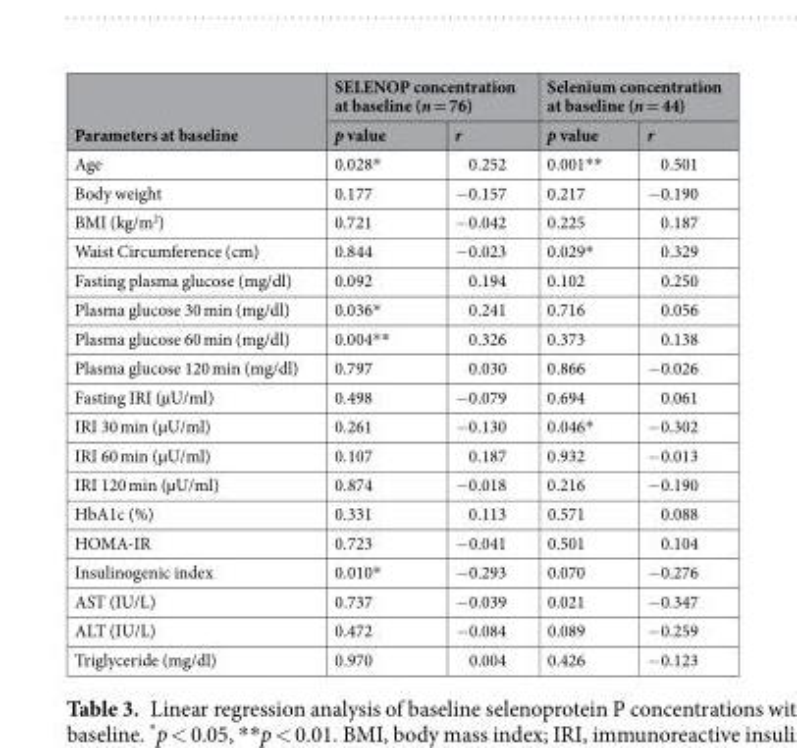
<table><thead><tr><td rowspan="2">Parameters at baseline</td><td colspan="2">SELENOP concentration at baseline (n = 76)</td><td colspan="2">Selenium concentration at baseline (n = 44)</td></tr><tr><td>p value</td><td>r</td><td>p value</td><td>r</td></tr></thead><tbody><tr><td>Age</td><td>0.028*</td><td>0.252</td><td>0.001**</td><td>0.501</td></tr><tr><td>Body weight</td><td>0.177</td><td>−0.157</td><td>0.217</td><td>−0.190</td></tr><tr><td>BMI (kg/m<sup>2</sup>)</td><td>0.721</td><td>−0.042</td><td>0.225</td><td>0.187</td></tr><tr><td>Waist Circumference (cm)</td><td>0.844</td><td>−0.023</td><td>0.029*</td><td>0.329</td></tr><tr><td>Fasting plasma glucose (mg/dl)</td><td>0.092</td><td>0.194</td><td>0.102</td><td>0.250</td></tr><tr><td>Plasma glucose 30 min (mg/dl)</td><td>0.036*</td><td>0.241</td><td>0.716</td><td>0.056</td></tr><tr><td>Plasma glucose 60 min (mg/dl)</td><td>0.004**</td><td>0.326</td><td>0.373</td><td>0.138</td></tr><tr><td>Plasma glucose 120 min (mg/dl)</td><td>0.797</td><td>0.030</td><td>0.866</td><td>−0.026</td></tr><tr><td>Fasting IRI (µU/ml)</td><td>0.498</td><td>−0.079</td><td>0.694</td><td>0.061</td></tr><tr><td>IRI 30 min (µU/ml)</td><td>0.261</td><td>−0.130</td><td>0.046*</td><td>−0.302</td></tr><tr><td>IRI 60 min (µU/ml)</td><td>0.107</td><td>0.187</td><td>0.932</td><td>−0.013</td></tr><tr><td>IRI 120 min (µU/ml)</td><td>0.874</td><td>−0.018</td><td>0.216</td><td>−0.190</td></tr><tr><td>HbA1c (%)</td><td>0.331</td><td>0.113</td><td>0.571</td><td>0.088</td></tr><tr><td>HOMA-IR</td><td>0.723</td><td>−0.041</td><td>0.501</td><td>0.104</td></tr><tr><td>Insulinogenic index</td><td>0.010*</td><td>−0.293</td><td>0.070</td><td>−0.276</td></tr><tr><td>AST (IU/L)</td><td>0.737</td><td>−0.039</td><td>0.021</td><td>−0.347</td></tr><tr><td>ALT (IU/L)</td><td>0.472</td><td>−0.084</td><td>0.089</td><td>−0.259</td></tr><tr><td>Triglyceride (mg/dl)</td><td>0.970</td><td>0.004</td><td>0.426</td><td>−0.123</td></tr></tbody></table>